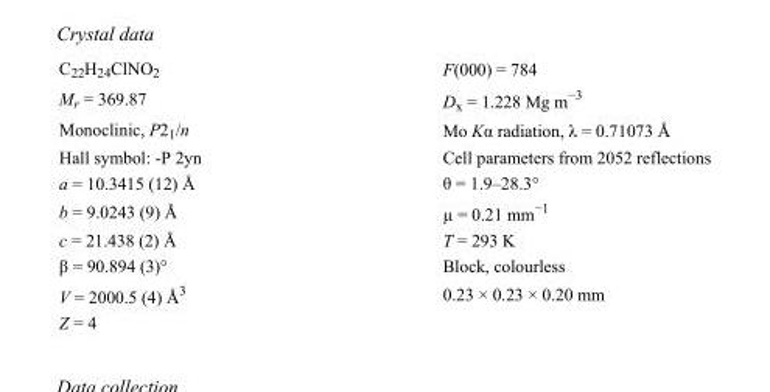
<table><tbody><tr><td>C<sub>22</sub>H<sub>24</sub>ClNO<sub>2</sub></td><td>F(000) = 784</td></tr><tr><td>M<sub>r</sub> = 369.87</td><td>D<sub>x</sub> = 1.228 Mg m<sup>−3</sup></td></tr><tr><td>Monoclinic, P2<sub>1</sub>/n</td><td>Mo Kα radiation, λ = 0.71073 Å</td></tr><tr><td>Hall symbol: -P 2yn</td><td>Cell parameters from 2052 reflections</td></tr><tr><td>a = 10.3415 (12) Å</td><td>θ = 1.9–28.3°</td></tr><tr><td>b = 9.0243 (9) Å</td><td>µ = 0.21 mm<sup>−1</sup></td></tr><tr><td>c = 21.438 (2) Å</td><td>T = 293 K</td></tr><tr><td>β = 90.894 (3)°</td><td>Block, colourless</td></tr><tr><td>V = 2000.5 (4) Å<sup>3</sup></td><td>0.23 × 0.23 × 0.20 mm</td></tr><tr><td>Z = 4</td><td></td></tr></tbody></table>